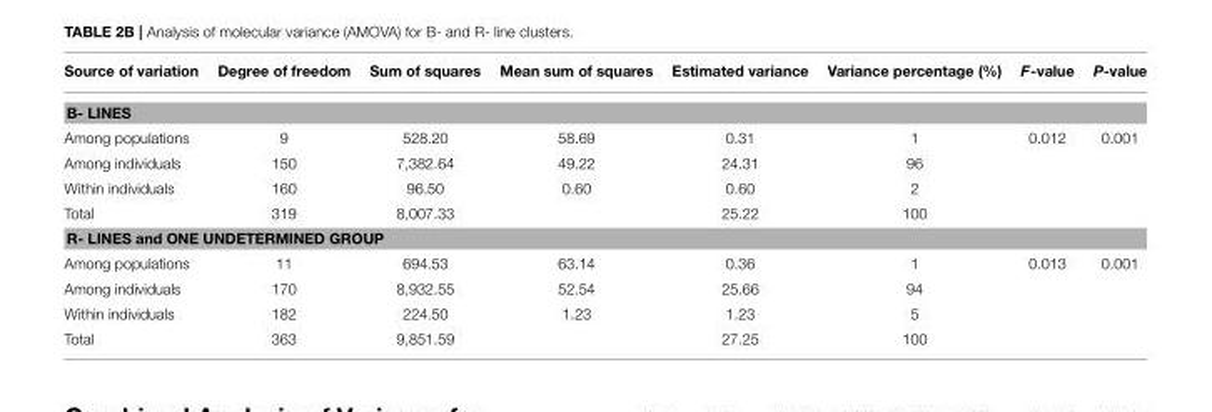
<table><thead><tr><td>Source of variation</td><td>Degree of freedom</td><td>Sum of squares</td><td>Mean sum of squares</td><td>Estimated variance</td><td>Variance percentage (%)</td><td>F-value</td><td>P-value</td></tr></thead><tbody><tr><td colspan="8">B- LINES</td></tr><tr><td>Among populations</td><td>9</td><td>528.20</td><td>58.69</td><td>0.31</td><td>1</td><td>0.012</td><td>0.001</td></tr><tr><td>Among individuals</td><td>150</td><td>7,382.64</td><td>49.22</td><td>24.31</td><td>96</td><td></td><td></td></tr><tr><td>Within individuals</td><td>160</td><td>96.50</td><td>0.60</td><td>0.60</td><td>2</td><td></td><td></td></tr><tr><td>Total</td><td>319</td><td>8,007.33</td><td></td><td>25.22</td><td>100</td><td></td><td></td></tr><tr><td colspan="8">R- LINES and ONE UNDETERMINED GROUP</td></tr><tr><td>Among populations</td><td>11</td><td>694.53</td><td>63.14</td><td>0.36</td><td>1</td><td>0.013</td><td>0.001</td></tr><tr><td>Among individuals</td><td>170</td><td>8,932.55</td><td>52.54</td><td>25.66</td><td>94</td><td></td><td></td></tr><tr><td>Within individuals</td><td>182</td><td>224.50</td><td>1.23</td><td>1.23</td><td>5</td><td></td><td></td></tr><tr><td>Total</td><td>363</td><td>9,851.59</td><td></td><td>27.25</td><td>100</td><td></td><td></td></tr></tbody></table>